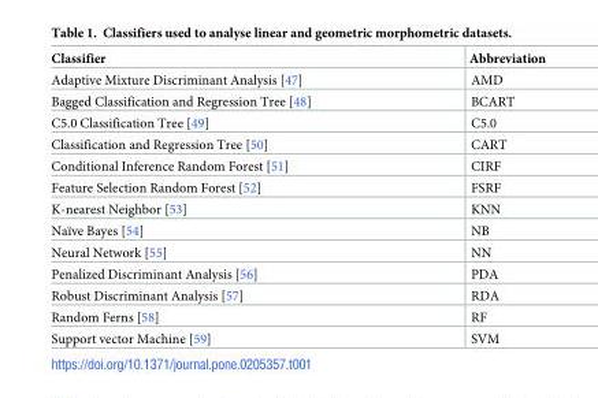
<table><thead><tr><td>Classifier</td><td>Abbreviation</td></tr></thead><tbody><tr><td>Adaptive Mixture Discriminant Analysis [47]</td><td>AMD</td></tr><tr><td>Bagged Classification and Regression Tree [48]</td><td>BCART</td></tr><tr><td>C5.0 Classification Tree [49]</td><td>C5.0</td></tr><tr><td>Classification and Regression Tree [50]</td><td>CART</td></tr><tr><td>Conditional Inference Random Forest [51]</td><td>CIRF</td></tr><tr><td>Feature Selection Random Forest [52]</td><td>FSRF</td></tr><tr><td>K-nearest Neighbor [53]</td><td>KNN</td></tr><tr><td>Naïve Bayes [54]</td><td>NB</td></tr><tr><td>Neural Network [55]</td><td>NN</td></tr><tr><td>Penalized Discriminant Analysis [56]</td><td>PDA</td></tr><tr><td>Robust Discriminant Analysis [57]</td><td>RDA</td></tr><tr><td>Random Ferns [58]</td><td>RF</td></tr><tr><td>Support vector Machine [59]</td><td>SVM</td></tr></tbody></table>